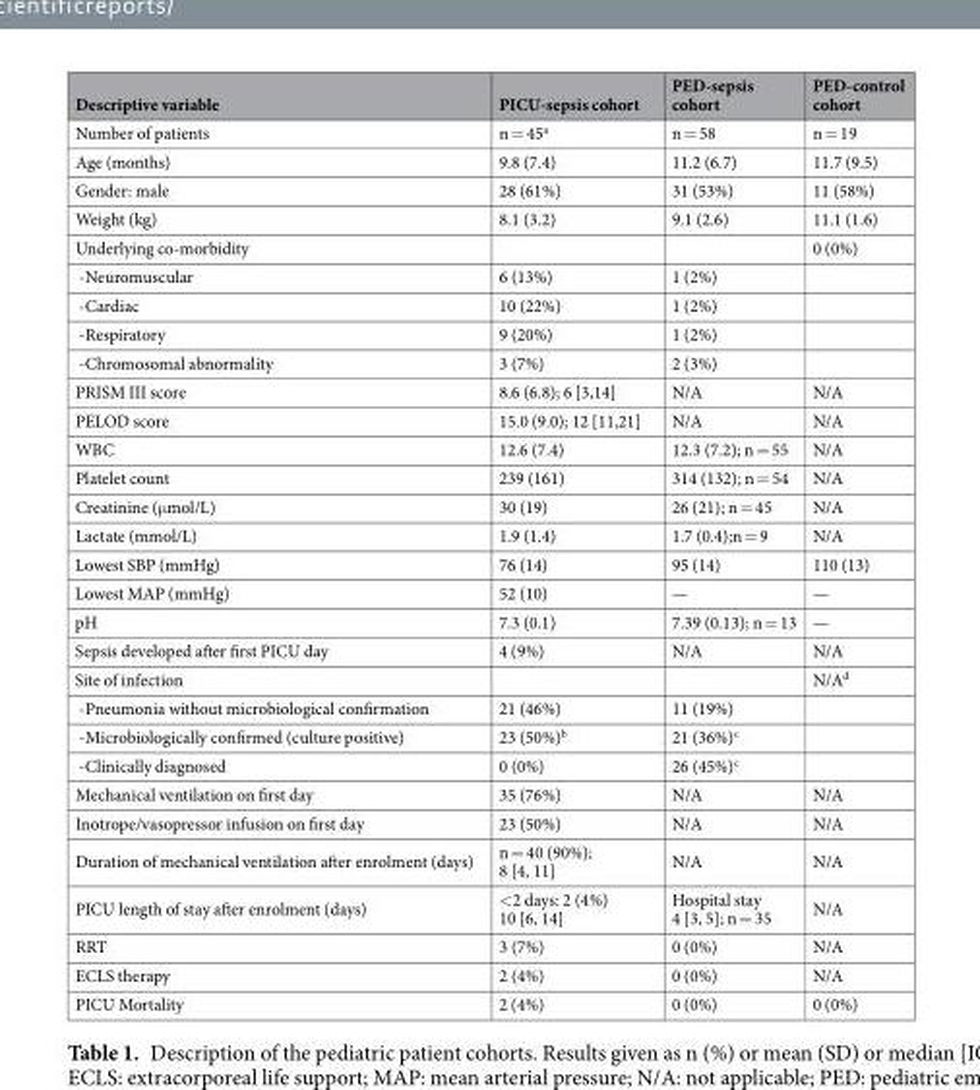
<table><thead><tr><td>Descriptive variable</td><td>PICU-sepsis cohort</td><td>PED-sepsis cohort</td><td>PED-control cohort</td></tr></thead><tbody><tr><td>Number of patients</td><td>n = 45<sup>a</sup></td><td>n = 58</td><td>n = 19</td></tr><tr><td>Age (months)</td><td>9.8 (7.4)</td><td>11.2 (6.7)</td><td>11.7 (9.5)</td></tr><tr><td>Gender: male</td><td>28 (61%)</td><td>31 (53%)</td><td>11 (58%)</td></tr><tr><td>Weight (kg)</td><td>8.1 (3.2)</td><td>9.1 (2.6)</td><td>11.1 (1.6)</td></tr><tr><td>Underlying co-morbidity</td><td></td><td></td><td>0 (0%)</td></tr><tr><td>-Neuromuscular</td><td>6 (13%)</td><td>1 (2%)</td><td></td></tr><tr><td>-Cardiac</td><td>10 (22%)</td><td>1 (2%)</td><td></td></tr><tr><td>-Respiratory</td><td>9 (20%)</td><td>1 (2%)</td><td></td></tr><tr><td>-Chromosomal abnormality</td><td>3 (7%)</td><td>2 (3%)</td><td></td></tr><tr><td>PRISM III score</td><td>8.6 (6.8); 6 [3,14]</td><td>N/A</td><td>N/A</td></tr><tr><td>PELOD score</td><td>15.0 (9.0); 12 [11,21]</td><td>N/A</td><td>N/A</td></tr><tr><td>WBC</td><td>12.6 (7.4)</td><td>12.3 (7.2); n = 55</td><td>N/A</td></tr><tr><td>Platelet count</td><td>239 (161)</td><td>314 (132); n = 54</td><td>N/A</td></tr><tr><td>Creatinine (μmol/L)</td><td>30 (19)</td><td>26 (21); n = 45</td><td>N/A</td></tr><tr><td>Lactate (mmol/L)</td><td>1.9 (1.4)</td><td>1.7 (0.4);n = 9</td><td>N/A</td></tr><tr><td>Lowest SBP (mmHg)</td><td>76 (14)</td><td>95 (14)</td><td>110 (13)</td></tr><tr><td>Lowest MAP (mmHg)</td><td>52 (10)</td><td>—</td><td>—</td></tr><tr><td>pH</td><td>7.3 (0.1)</td><td>7.39 (0.13); n = 13</td><td>—</td></tr><tr><td>Sepsis developed after first PICU day</td><td>4 (9%)</td><td>N/A</td><td>N/A</td></tr><tr><td>Site of infection</td><td></td><td></td><td>N/A<sup>d</sup></td></tr><tr><td>-Pneumonia without microbiological confirmation</td><td>21 (46%)</td><td>11 (19%)</td><td></td></tr><tr><td>-Microbiologically confirmed (culture positive)</td><td>23 (50%)<sup>b</sup></td><td>21 (36%)<sup>c</sup></td><td></td></tr><tr><td>-Clinically diagnosed</td><td>0 (0%)</td><td>26 (45%)<sup>c</sup></td><td></td></tr><tr><td>Mechanical ventilation on first day</td><td>35 (76%)</td><td>N/A</td><td>N/A</td></tr><tr><td>Inotrope/vasopressor infusion on first day</td><td>23 (50%)</td><td>N/A</td><td>N/A</td></tr><tr><td>Duration of mechanical ventilation after enrolment (days)</td><td>n = 40 (90%); 8 [4, 11]</td><td>N/A</td><td>N/A</td></tr><tr><td>PICU length of stay after enrolment (days)</td><td>&lt;2 days: 2 (4%) 10 [6, 14]</td><td>Hospital stay 4 [3, 5]; n = 35</td><td>N/A</td></tr><tr><td>RRT</td><td>3 (7%)</td><td>0 (0%)</td><td>N/A</td></tr><tr><td>ECLS therapy</td><td>2 (4%)</td><td>0 (0%)</td><td>N/A</td></tr><tr><td>PICU Mortality</td><td>2 (4%)</td><td>0 (0%)</td><td>0 (0%)</td></tr></tbody></table>